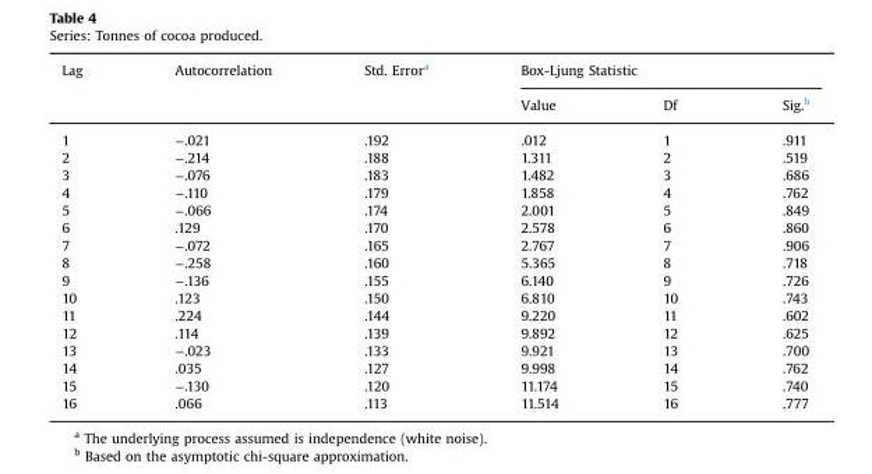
<table><thead><tr><td rowspan="2">Lag</td><td rowspan="2">Autocorrelation</td><td rowspan="2">Std. Error<sup>a</sup></td><td colspan="3">Box-Ljung Statistic</td></tr><tr><td>Value</td><td>Df</td><td>Sig.<sup>b</sup></td></tr></thead><tbody><tr><td>1</td><td>−.021</td><td>.192</td><td>.012</td><td>1</td><td>.911</td></tr><tr><td>2</td><td>−.214</td><td>.188</td><td>1.311</td><td>2</td><td>.519</td></tr><tr><td>3</td><td>−.076</td><td>.183</td><td>1.482</td><td>3</td><td>.686</td></tr><tr><td>4</td><td>−.110</td><td>.179</td><td>1.858</td><td>4</td><td>.762</td></tr><tr><td>5</td><td>−.066</td><td>.174</td><td>2.001</td><td>5</td><td>.849</td></tr><tr><td>6</td><td>.129</td><td>.170</td><td>2.578</td><td>6</td><td>.860</td></tr><tr><td>7</td><td>−.072</td><td>.165</td><td>2.767</td><td>7</td><td>.906</td></tr><tr><td>8</td><td>−.258</td><td>.160</td><td>5.365</td><td>8</td><td>.718</td></tr><tr><td>9</td><td>−.136</td><td>.155</td><td>6.140</td><td>9</td><td>.726</td></tr><tr><td>10</td><td>.123</td><td>.150</td><td>6.810</td><td>10</td><td>.743</td></tr><tr><td>11</td><td>.224</td><td>.144</td><td>9.220</td><td>11</td><td>.602</td></tr><tr><td>12</td><td>.114</td><td>.139</td><td>9.892</td><td>12</td><td>.625</td></tr><tr><td>13</td><td>−.023</td><td>.133</td><td>9.921</td><td>13</td><td>.700</td></tr><tr><td>14</td><td>.035</td><td>.127</td><td>9.998</td><td>14</td><td>.762</td></tr><tr><td>15</td><td>−.130</td><td>.120</td><td>11.174</td><td>15</td><td>.740</td></tr><tr><td>16</td><td>.066</td><td>.113</td><td>11.514</td><td>16</td><td>.777</td></tr></tbody></table>